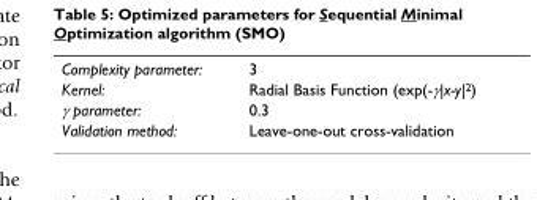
<table><tbody><tr><td>Complexity parameter:</td><td>3</td></tr><tr><td>Kernel:</td><td>Radial Basis Function (exp(-γ|x-y|<sup>2</sup>)</td></tr><tr><td>γ parameter:</td><td>0.3</td></tr><tr><td>Validation method:</td><td>Leave-one-out cross-validation</td></tr></tbody></table>